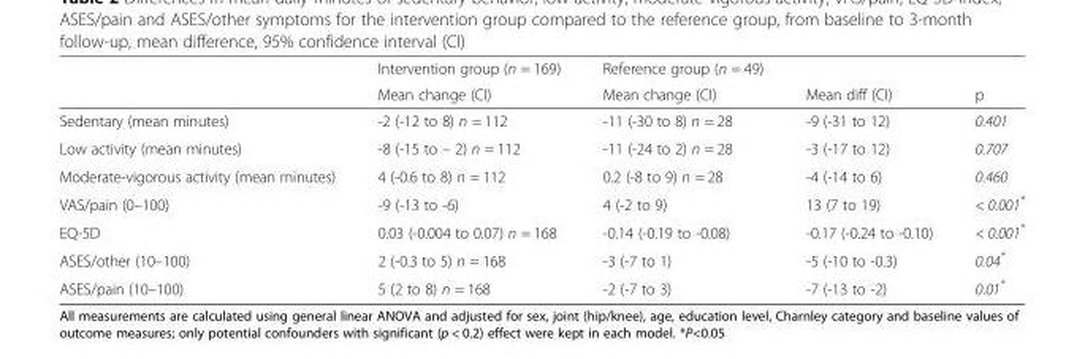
<table><thead><tr><td rowspan="2"></td><td rowspan="2">Intervention group (n = 169) Mean change (CI)</td><td rowspan="2">Reference group (n = 49) Mean change (CI)</td><td rowspan="2">Mean diff (CI)</td><td rowspan="2">p</td></tr><tr></tr></thead><tbody><tr><td>Sedentary (mean minutes)</td><td>-2 (-12 to 8) n = 112</td><td>-11 (-30 to 8) n = 28</td><td>-9 (-31 to 12)</td><td>0.401</td></tr><tr><td>Low activity (mean minutes)</td><td>-8 (-15 to – 2) n = 112</td><td>-11 (-24 to 2) n = 28</td><td>-3 (-17 to 12)</td><td>0.707</td></tr><tr><td>Moderate-vigorous activity (mean minutes)</td><td>4 (-0.6 to 8) n = 112</td><td>0.2 (-8 to 9) n = 28</td><td>-4 (-14 to 6)</td><td>0.460</td></tr><tr><td>VAS/pain (0–100)</td><td>-9 (-13 to -6)</td><td>4 (-2 to 9)</td><td>13 (7 to 19)</td><td>&lt; 0.001*</td></tr><tr><td>EQ-5D</td><td>0.03 (-0.004 to 0.07) n = 168</td><td>-0.14 (-0.19 to -0.08)</td><td>-0.17 (-0.24 to -0.10)</td><td>&lt; 0.001*</td></tr><tr><td>ASES/other (10–100)</td><td>2 (-0.3 to 5) n = 168</td><td>-3 (-7 to 1)</td><td>-5 (-10 to -0.3)</td><td>0.04*</td></tr><tr><td>ASES/pain (10–100)</td><td>5 (2 to 8) n = 168</td><td>-2 (-7 to 3)</td><td>-7 (-13 to -2)</td><td>0.01*</td></tr></tbody></table>